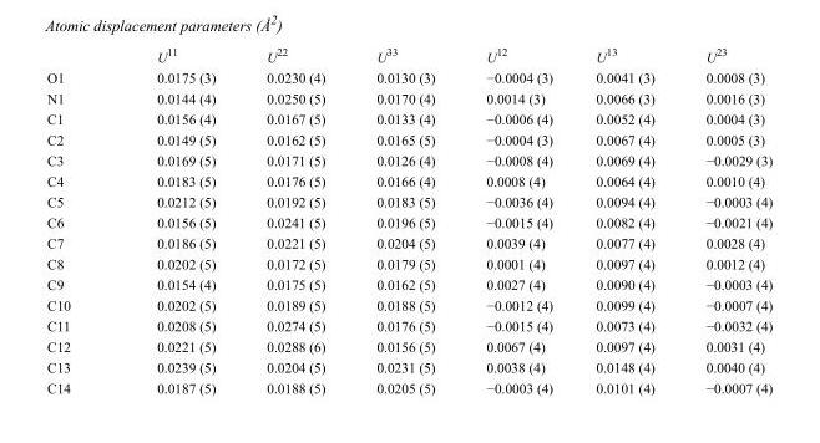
<table><thead><tr><td></td><td>U<sup>11</sup></td><td>U<sup>22</sup></td><td>U<sup>33</sup></td><td>U<sup>12</sup></td><td>U<sup>13</sup></td><td>U<sup>23</sup></td></tr></thead><tbody><tr><td>O1</td><td>0.0175 (3)</td><td>0.0230 (4)</td><td>0.0130 (3)</td><td>−0.0004 (3)</td><td>0.0041 (3)</td><td>0.0008 (3)</td></tr><tr><td>N1</td><td>0.0144 (4)</td><td>0.0250 (5)</td><td>0.0170 (4)</td><td>0.0014 (3)</td><td>0.0066 (3)</td><td>0.0016 (3)</td></tr><tr><td>C1</td><td>0.0156 (4)</td><td>0.0167 (5)</td><td>0.0133 (4)</td><td>−0.0006 (4)</td><td>0.0052 (4)</td><td>0.0004 (3)</td></tr><tr><td>C2</td><td>0.0149 (5)</td><td>0.0162 (5)</td><td>0.0165 (5)</td><td>−0.0004 (3)</td><td>0.0067 (4)</td><td>0.0005 (3)</td></tr><tr><td>C3</td><td>0.0169 (5)</td><td>0.0171 (5)</td><td>0.0126 (4)</td><td>−0.0008 (4)</td><td>0.0069 (4)</td><td>−0.0029 (3)</td></tr><tr><td>C4</td><td>0.0183 (5)</td><td>0.0176 (5)</td><td>0.0166 (4)</td><td>0.0008 (4)</td><td>0.0064 (4)</td><td>0.0010 (4)</td></tr><tr><td>C5</td><td>0.0212 (5)</td><td>0.0192 (5)</td><td>0.0183 (5)</td><td>−0.0036 (4)</td><td>0.0094 (4)</td><td>−0.0003 (4)</td></tr><tr><td>C6</td><td>0.0156 (5)</td><td>0.0241 (5)</td><td>0.0196 (5)</td><td>−0.0015 (4)</td><td>0.0082 (4)</td><td>−0.0021 (4)</td></tr><tr><td>C7</td><td>0.0186 (5)</td><td>0.0221 (5)</td><td>0.0204 (5)</td><td>0.0039 (4)</td><td>0.0077 (4)</td><td>0.0028 (4)</td></tr><tr><td>C8</td><td>0.0202 (5)</td><td>0.0172 (5)</td><td>0.0179 (5)</td><td>0.0001 (4)</td><td>0.0097 (4)</td><td>0.0012 (4)</td></tr><tr><td>C9</td><td>0.0154 (4)</td><td>0.0175 (5)</td><td>0.0162 (5)</td><td>0.0027 (4)</td><td>0.0090 (4)</td><td>−0.0003 (4)</td></tr><tr><td>C10</td><td>0.0202 (5)</td><td>0.0189 (5)</td><td>0.0188 (5)</td><td>−0.0012 (4)</td><td>0.0099 (4)</td><td>−0.0007 (4)</td></tr><tr><td>C11</td><td>0.0208 (5)</td><td>0.0274 (5)</td><td>0.0176 (5)</td><td>−0.0015 (4)</td><td>0.0073 (4)</td><td>−0.0032 (4)</td></tr><tr><td>C12</td><td>0.0221 (5)</td><td>0.0288 (6)</td><td>0.0156 (5)</td><td>0.0067 (4)</td><td>0.0097 (4)</td><td>0.0031 (4)</td></tr><tr><td>C13</td><td>0.0239 (5)</td><td>0.0204 (5)</td><td>0.0231 (5)</td><td>0.0038 (4)</td><td>0.0148 (4)</td><td>0.0040 (4)</td></tr><tr><td>C14</td><td>0.0187 (5)</td><td>0.0188 (5)</td><td>0.0205 (5)</td><td>−0.0003 (4)</td><td>0.0101 (4)</td><td>−0.0007 (4)</td></tr></tbody></table>